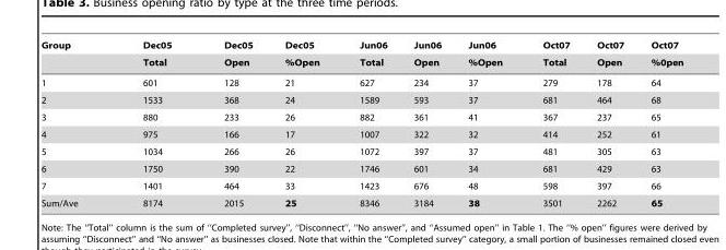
<table><thead><tr><td rowspan="2">Group</td><td rowspan="2">Dec05 Total</td><td rowspan="2">Dec05 Open</td><td rowspan="2">Dec05 %Open</td><td rowspan="2">Jun06 Total</td><td rowspan="2">Jun06 Open</td><td rowspan="2">Jun06 %Open</td><td rowspan="2">Oct07 Total</td><td rowspan="2">Oct07 Open</td><td rowspan="2">Oct07 %0pen</td></tr><tr></tr></thead><tbody><tr><td>1</td><td>601</td><td>128</td><td>21</td><td>627</td><td>234</td><td>37</td><td>279</td><td>178</td><td>64</td></tr><tr><td>2</td><td>1533</td><td>368</td><td>24</td><td>1589</td><td>593</td><td>37</td><td>681</td><td>464</td><td>68</td></tr><tr><td>3</td><td>880</td><td>233</td><td>26</td><td>882</td><td>361</td><td>41</td><td>367</td><td>237</td><td>65</td></tr><tr><td>4</td><td>975</td><td>166</td><td>17</td><td>1007</td><td>322</td><td>32</td><td>414</td><td>252</td><td>61</td></tr><tr><td>5</td><td>1034</td><td>266</td><td>26</td><td>1072</td><td>397</td><td>37</td><td>481</td><td>305</td><td>63</td></tr><tr><td>6</td><td>1750</td><td>390</td><td>22</td><td>1746</td><td>601</td><td>34</td><td>681</td><td>429</td><td>63</td></tr><tr><td>7</td><td>1401</td><td>464</td><td>33</td><td>1423</td><td>676</td><td>48</td><td>598</td><td>397</td><td>66</td></tr><tr><td>Sum/Ave</td><td>8174</td><td>2015</td><td>25</td><td>8346</td><td>3184</td><td>38</td><td>3501</td><td>2262</td><td>65</td></tr></tbody></table>